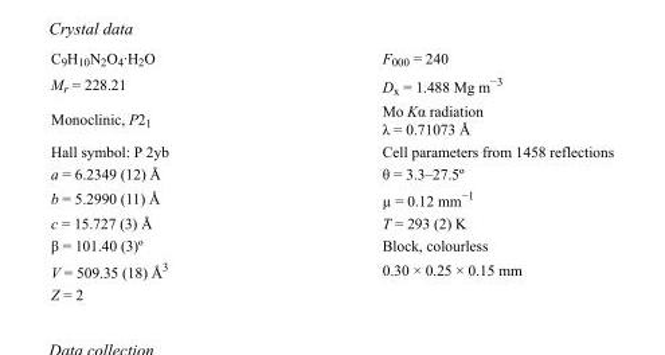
<table><tbody><tr><td>C<sub>9</sub>H<sub>10</sub>N<sub>2</sub>O<sub>4</sub>·H<sub>2</sub>O</td><td>F<sub>000</sub> = 240</td></tr><tr><td>M<sub>r</sub> = 228.21</td><td>D<sub>x</sub> = 1.488 Mg m<sup>−3</sup></td></tr><tr><td>Monoclinic, P2<sub>1</sub></td><td>Mo Kα radiation λ = 0.71073 Å</td></tr><tr><td>Hall symbol: P 2yb</td><td>Cell parameters from 1458 reflections</td></tr><tr><td>a = 6.2349 (12) Å</td><td>θ = 3.3–27.5º</td></tr><tr><td>b = 5.2990 (11) Å</td><td>µ = 0.12 mm<sup>−1</sup></td></tr><tr><td>c = 15.727 (3) Å</td><td>T = 293 (2) K</td></tr><tr><td>β = 101.40 (3)º</td><td>Block, colourless</td></tr><tr><td>V = 509.35 (18) Å<sup>3</sup></td><td>0.30 × 0.25 × 0.15 mm</td></tr><tr><td>Z = 2</td><td></td></tr></tbody></table>